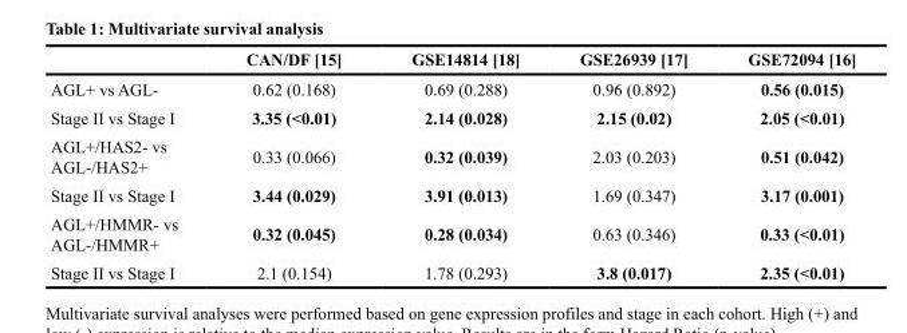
<table><thead><tr><td></td><td>CAN/DF [15]</td><td>GSE14814 [18]</td><td>GSE26939 [17]</td><td>GSE72094 [16]</td></tr></thead><tbody><tr><td>AGL+ vs AGL-</td><td>0.62 (0.168)</td><td>0.69 (0.288)</td><td>0.96 (0.892)</td><td>0.56 (0.015)</td></tr><tr><td>Stage II vs Stage I</td><td>3.35 (&lt;0.01)</td><td>2.14 (0.028)</td><td>2.15 (0.02)</td><td>2.05 (&lt;0.01)</td></tr><tr><td>AGL+/HAS2- vs AGL-/HAS2+</td><td>0.33 (0.066)</td><td>0.32 (0.039)</td><td>2.03 (0.203)</td><td>0.51 (0.042)</td></tr><tr><td>Stage II vs Stage I</td><td>3.44 (0.029)</td><td>3.91 (0.013)</td><td>1.69 (0.347)</td><td>3.17 (0.001)</td></tr><tr><td>AGL+/HMMR- vs AGL-/HMMR+</td><td>0.32 (0.045)</td><td>0.28 (0.034)</td><td>0.63 (0.346)</td><td>0.33 (&lt;0.01)</td></tr><tr><td>Stage II vs Stage I</td><td>2.1 (0.154)</td><td>1.78 (0.293)</td><td>3.8 (0.017)</td><td>2.35 (&lt;0.01)</td></tr></tbody></table>